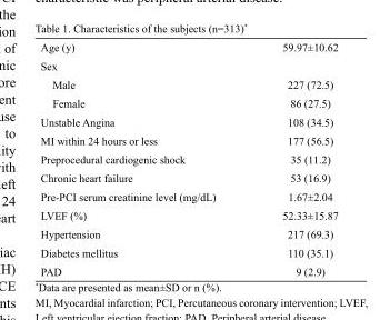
<table><tbody><tr><td>Age (y)</td><td>59.97±10.62</td></tr><tr><td colspan="2">Sex</td></tr><tr><td>Male</td><td>227 (72.5)</td></tr><tr><td>Female</td><td>86 (27.5)</td></tr><tr><td>Unstable Angina</td><td>108 (34.5)</td></tr><tr><td>MI within 24 hours or less</td><td>177 (56.5)</td></tr><tr><td>Preprocedural cardiogenic shock</td><td>35 (11.2)</td></tr><tr><td>Chronic heart failure</td><td>53 (16.9)</td></tr><tr><td>Pre-PCI serum creatinine level (mg/dL)</td><td>1.67±2.04</td></tr><tr><td>LVEF (%)</td><td>52.33±15.87</td></tr><tr><td>Hypertension</td><td>217 (69.3)</td></tr><tr><td>Diabetes mellitus</td><td>110 (35.1)</td></tr><tr><td>PAD</td><td>9 (2.9)</td></tr></tbody></table>